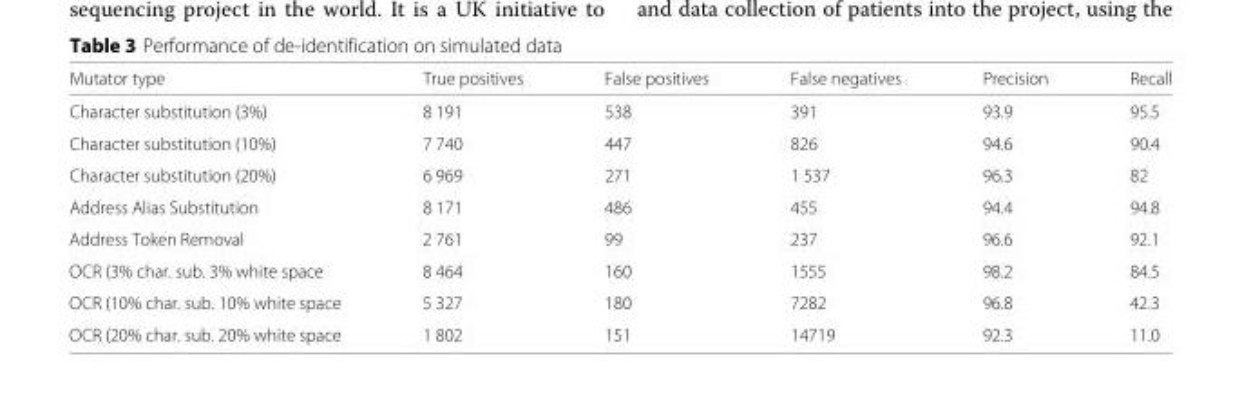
<table><thead><tr><td>Mutator type</td><td>True positives</td><td>False positives</td><td>False negatives</td><td>Precision</td><td>Recall</td></tr></thead><tbody><tr><td>Character substitution (3%)</td><td>8 191</td><td>538</td><td>391</td><td>93.9</td><td>95.5</td></tr><tr><td>Character substitution (10%)</td><td>7 740</td><td>447</td><td>826</td><td>94.6</td><td>90.4</td></tr><tr><td>Character substitution (20%)</td><td>6 969</td><td>271</td><td>1 537</td><td>96.3</td><td>82</td></tr><tr><td>Address Alias Substitution</td><td>8 171</td><td>486</td><td>455</td><td>94.4</td><td>94.8</td></tr><tr><td>Address Token Removal</td><td>2 761</td><td>99</td><td>237</td><td>96.6</td><td>92.1</td></tr><tr><td>OCR (3% char. sub. 3% white space</td><td>8 464</td><td>160</td><td>1555</td><td>98.2</td><td>84.5</td></tr><tr><td>OCR (10% char. sub. 10% white space</td><td>5 327</td><td>180</td><td>7282</td><td>96.8</td><td>42.3</td></tr><tr><td>OCR (20% char. sub. 20% white space</td><td>1 802</td><td>151</td><td>14719</td><td>92.3</td><td>11.0</td></tr></tbody></table>